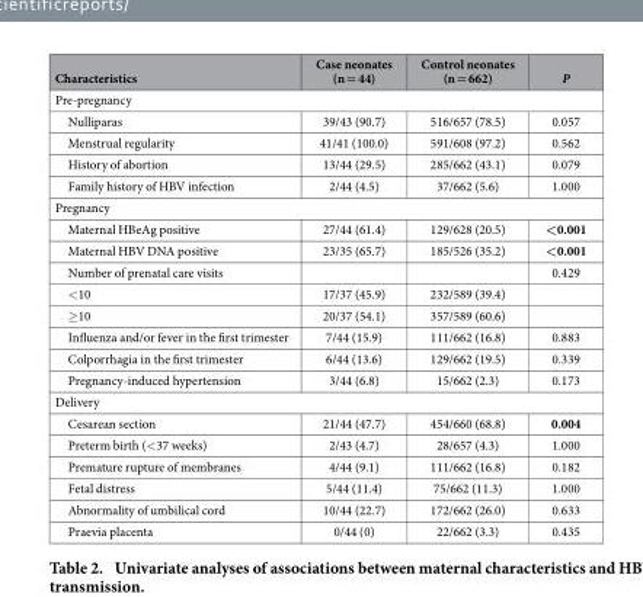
<table><thead><tr><td>Characteristics</td><td>Case neonates (n = 44)</td><td>Control neonates (n = 662)</td><td>P</td></tr></thead><tbody><tr><td colspan="4">Pre-pregnancy</td></tr><tr><td>Nulliparas</td><td>39/43 (90.7)</td><td>516/657 (78.5)</td><td>0.057</td></tr><tr><td>Menstrual regularity</td><td>41/41 (100.0)</td><td>591/608 (97.2)</td><td>0.562</td></tr><tr><td>History of abortion</td><td>13/44 (29.5)</td><td>285/662 (43.1)</td><td>0.079</td></tr><tr><td>Family history of HBV infection</td><td>2/44 (4.5)</td><td>37/662 (5.6)</td><td>1.000</td></tr><tr><td colspan="4">Pregnancy</td></tr><tr><td>Maternal HBeAg positive</td><td>27/44 (61.4)</td><td>129/628 (20.5)</td><td>&lt;0.001</td></tr><tr><td>Maternal HBV DNA positive</td><td>23/35 (65.7)</td><td>185/526 (35.2)</td><td>&lt;0.001</td></tr><tr><td>Number of prenatal care visits</td><td></td><td></td><td>0.429</td></tr><tr><td>&lt; 10</td><td>17/37 (45.9)</td><td>232/589 (39.4)</td><td></td></tr><tr><td>≥ 10</td><td>20/37 (54.1)</td><td>357/589 (60.6)</td><td></td></tr><tr><td>Influenza and/or fever in the first trimester</td><td>7/44 (15.9)</td><td>111/662 (16.8)</td><td>0.883</td></tr><tr><td>Colporrhagia in the first trimester</td><td>6/44 (13.6)</td><td>129/662 (19.5)</td><td>0.339</td></tr><tr><td>Pregnancy-induced hypertension</td><td>3/44 (6.8)</td><td>15/662 (2.3)</td><td>0.173</td></tr><tr><td colspan="4">Delivery</td></tr><tr><td>Cesarean section</td><td>21/44 (47.7)</td><td>454/660 (68.8)</td><td>0.004</td></tr><tr><td>Preterm birth (&lt; 37 weeks)</td><td>2/43 (4.7)</td><td>28/657 (4.3)</td><td>1.000</td></tr><tr><td>Premature rupture of membranes</td><td>4/44 (9.1)</td><td>111/662 (16.8)</td><td>0.182</td></tr><tr><td>Fetal distress</td><td>5/44 (11.4)</td><td>75/662 (11.3)</td><td>1.000</td></tr><tr><td>Abnormality of umbilical cord</td><td>10/44 (22.7)</td><td>172/662 (26.0)</td><td>0.633</td></tr><tr><td>Praevia placenta</td><td>0/44 (0)</td><td>22/662 (3.3)</td><td>0.435</td></tr></tbody></table>